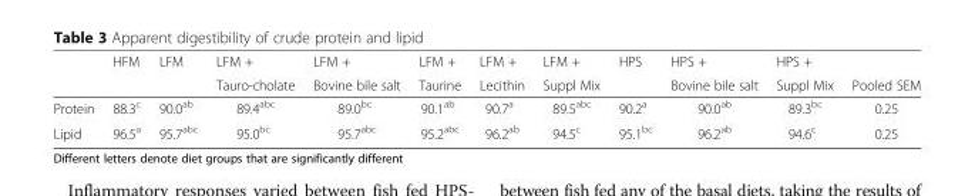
<table><thead><tr><td rowspan="2"></td><td rowspan="2">HFM</td><td rowspan="2">LFM</td><td rowspan="2">LFM + Tauro-cholate</td><td rowspan="2">LFM + Bovine bile salt</td><td rowspan="2">LFM + Taurine</td><td rowspan="2">LFM + Lecithin</td><td rowspan="2">LFM + Suppl Mix</td><td rowspan="2">HPS</td><td rowspan="2">HPS + Bovine bile salt</td><td rowspan="2">HPS + Suppl Mix</td><td rowspan="2">Pooled SEM</td></tr><tr></tr></thead><tbody><tr><td>Protein</td><td>88.3<sup>c</sup></td><td>90.0<sup>ab</sup></td><td>89.4<sup>abc</sup></td><td>89.0<sup>bc</sup></td><td>90.1<sup>ab</sup></td><td>90.7<sup>a</sup></td><td>89.5<sup>abc</sup></td><td>90.2<sup>a</sup></td><td>90.0<sup>ab</sup></td><td>89.3<sup>bc</sup></td><td>0.25</td></tr><tr><td>Lipid</td><td>96.5<sup>a</sup></td><td>95.7<sup>abc</sup></td><td>95.0<sup>bc</sup></td><td>95.7<sup>abc</sup></td><td>95.2<sup>abc</sup></td><td>96.2<sup>ab</sup></td><td>94.5<sup>c</sup></td><td>95.1<sup>bc</sup></td><td>96.2<sup>ab</sup></td><td>94.6<sup>c</sup></td><td>0.25</td></tr></tbody></table>